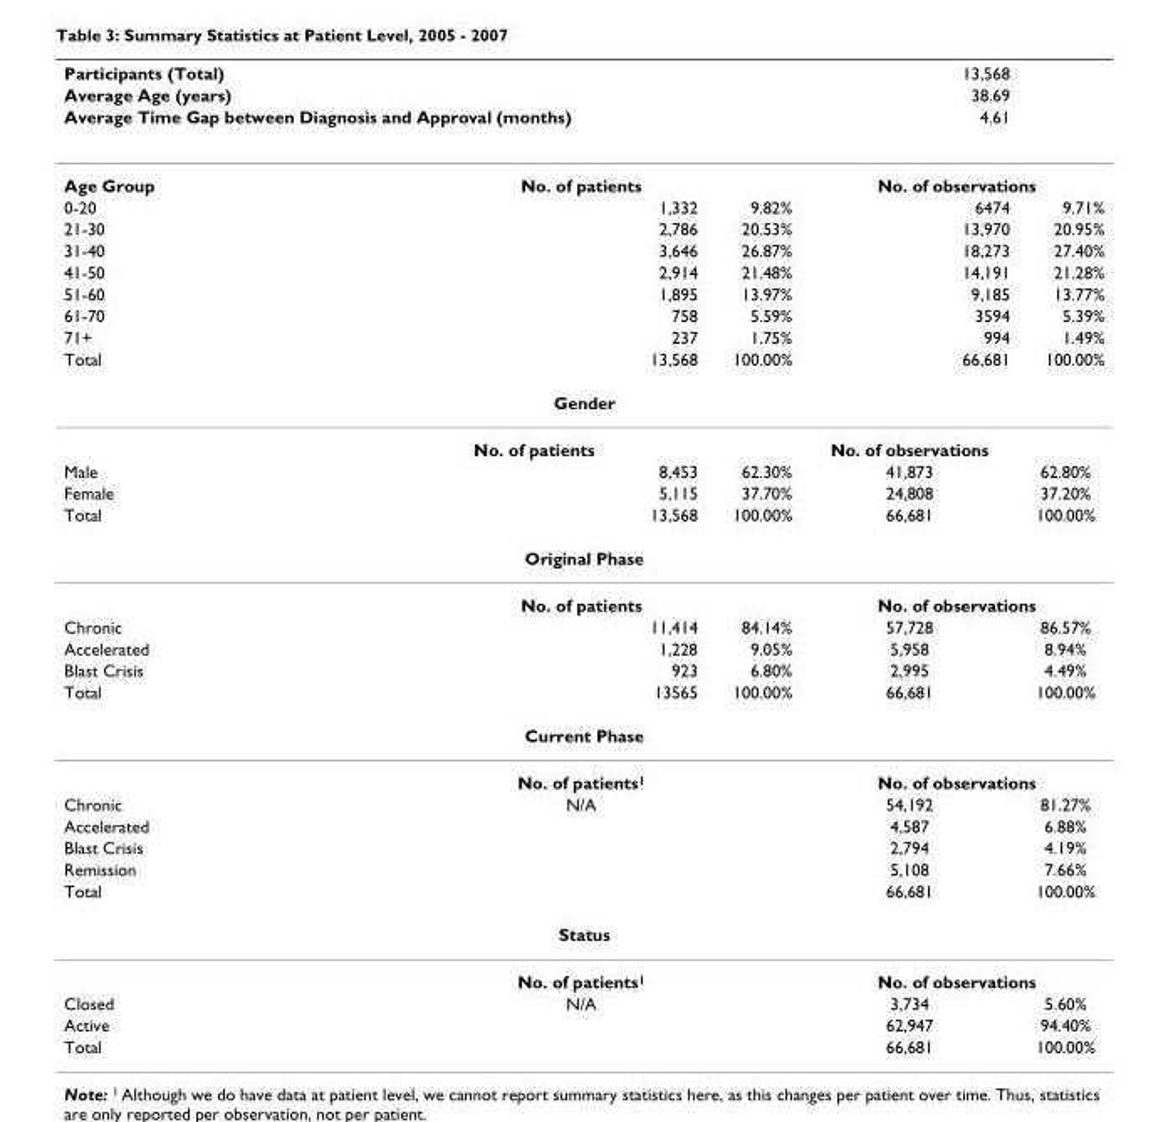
<table><thead><tr><td rowspan="3" colspan="2">Participants (Total) Average Age (years) Average Time Gap between Diagnosis and Approval (months)</td><td rowspan="3"></td><td rowspan="3">13,568 38.69 4.61</td><td rowspan="3"></td></tr><tr></tr><tr></tr><tr><td rowspan="2">Age Group 0-20</td><td colspan="2">No. of patients</td><td colspan="2">No. of observations</td></tr><tr><td>1,332</td><td>9.82%</td><td>6474</td><td>9.71%</td></tr></thead><tbody><tr><td>21-30</td><td>2,786</td><td>20.53%</td><td>13,970</td><td>20.95%</td></tr><tr><td>31-40</td><td>3,646</td><td>26.87%</td><td>18,273</td><td>27.40%</td></tr><tr><td>41-50</td><td>2,914</td><td>21.48%</td><td>14,191</td><td>21.28%</td></tr><tr><td>51-60</td><td>1,895</td><td>13.97%</td><td>9,185</td><td>13.77%</td></tr><tr><td>61-70</td><td>758</td><td>5.59%</td><td>3594</td><td>5.39%</td></tr><tr><td>71+</td><td>237</td><td>1.75%</td><td>994</td><td>1.49%</td></tr><tr><td>Total</td><td>13,568</td><td>100.00%</td><td>66,681</td><td>100.00%</td></tr><tr><td colspan="5">Gender</td></tr><tr><td></td><td>No. of patients</td><td></td><td>No. of observations</td><td></td></tr><tr><td>Male</td><td>8,453</td><td>62.30%</td><td>41,873</td><td>62.80%</td></tr><tr><td>Female</td><td>5,115</td><td>37.70%</td><td>24,808</td><td>37.20%</td></tr><tr><td>Total</td><td>13,568</td><td>100.00%</td><td>66,681</td><td>100.00%</td></tr><tr><td colspan="5">Original Phase</td></tr><tr><td></td><td colspan="2">No. of patients</td><td colspan="2">No. of observations</td></tr><tr><td>Chronic</td><td>11,414</td><td>84.14%</td><td>57,728</td><td>86.57%</td></tr><tr><td>Accelerated</td><td>1,228</td><td>9.05%</td><td>5,958</td><td>8.94%</td></tr><tr><td>Blast Crisis</td><td>923</td><td>6.80%</td><td>2,995</td><td>4.49%</td></tr><tr><td>Total</td><td>13565</td><td>100.00%</td><td>66,681</td><td>100.00%</td></tr><tr><td colspan="5">Current Phase</td></tr><tr><td></td><td colspan="2">No. of patients<sup>1</sup></td><td colspan="2">No. of observations</td></tr><tr><td>Chronic</td><td colspan="2">N/A</td><td>54,192</td><td>81.27%</td></tr><tr><td>Accelerated</td><td></td><td></td><td>4,587</td><td>6.88%</td></tr><tr><td>Blast Crisis</td><td></td><td></td><td>2,794</td><td>4.19%</td></tr><tr><td>Remission</td><td></td><td></td><td>5,108</td><td>7.66%</td></tr><tr><td>Total</td><td></td><td></td><td>66,681</td><td>100.00%</td></tr><tr><td colspan="5">Status</td></tr><tr><td></td><td colspan="2">No. of patients<sup>1</sup></td><td colspan="2">No. of observations</td></tr><tr><td>Closed</td><td colspan="2">N/A</td><td>3,734</td><td>5.60%</td></tr><tr><td>Active</td><td></td><td></td><td>62,947</td><td>94.40%</td></tr><tr><td>Total</td><td></td><td></td><td>66,681</td><td>100.00%</td></tr></tbody></table>